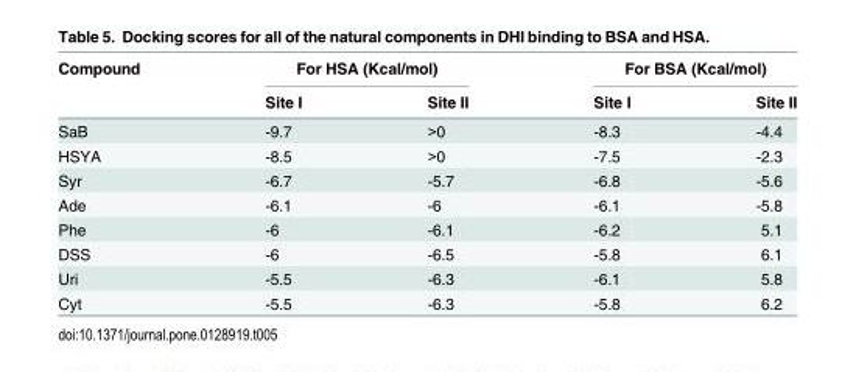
<table><thead><tr><td rowspan="2">Compound</td><td colspan="2">For HSA (Kcal/mol)</td><td colspan="2">For BSA (Kcal/mol)</td></tr><tr><td>Site I</td><td>Site II</td><td>Site I</td><td>Site II</td></tr></thead><tbody><tr><td>SaB</td><td>-9.7</td><td>&gt;0</td><td>-8.3</td><td>-4.4</td></tr><tr><td>HSYA</td><td>-8.5</td><td>&gt;0</td><td>-7.5</td><td>-2.3</td></tr><tr><td>Syr</td><td>-6.7</td><td>-5.7</td><td>-6.8</td><td>-5.6</td></tr><tr><td>Ade</td><td>-6.1</td><td>-6</td><td>-6.1</td><td>-5.8</td></tr><tr><td>Phe</td><td>-6</td><td>-6.1</td><td>-6.2</td><td>5.1</td></tr><tr><td>DSS</td><td>-6</td><td>-6.5</td><td>-5.8</td><td>6.1</td></tr><tr><td>Uri</td><td>-5.5</td><td>-6.3</td><td>-6.1</td><td>5.8</td></tr><tr><td>Cyt</td><td>-5.5</td><td>-6.3</td><td>-5.8</td><td>6.2</td></tr></tbody></table>